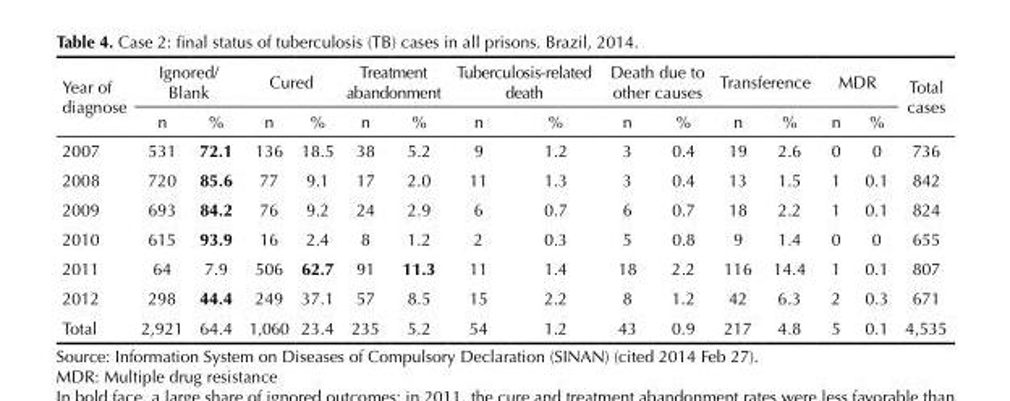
<table><thead><tr><td rowspan="2">Year of diagnose</td><td colspan="2">Ignored/ Blank</td><td colspan="2">Cured</td><td colspan="2">Treatment abandonment</td><td colspan="2">Tuberculosis-related death</td><td colspan="2">Death due to other causes</td><td colspan="2">Transference</td><td colspan="2">MDR</td><td rowspan="2">Total cases</td></tr><tr><td>n</td><td>%</td><td>n</td><td>%</td><td>n</td><td>%</td><td>n</td><td>%</td><td>n</td><td>%</td><td>n</td><td>%</td><td>n</td><td>%</td></tr></thead><tbody><tr><td>2007</td><td>531</td><td>72.1</td><td>136</td><td>18.5</td><td>38</td><td>5.2</td><td>9</td><td>1.2</td><td>3</td><td>0.4</td><td>19</td><td>2.6</td><td>0</td><td>0</td><td>736</td></tr><tr><td>2008</td><td>720</td><td>85.6</td><td>77</td><td>9.1</td><td>17</td><td>2.0</td><td>11</td><td>1.3</td><td>3</td><td>0.4</td><td>13</td><td>1.5</td><td>1</td><td>0.1</td><td>842</td></tr><tr><td>2009</td><td>693</td><td>84.2</td><td>76</td><td>9.2</td><td>24</td><td>2.9</td><td>6</td><td>0.7</td><td>6</td><td>0.7</td><td>18</td><td>2.2</td><td>1</td><td>0.1</td><td>824</td></tr><tr><td>2010</td><td>615</td><td>93.9</td><td>16</td><td>2.4</td><td>8</td><td>1.2</td><td>2</td><td>0.3</td><td>5</td><td>0.8</td><td>9</td><td>1.4</td><td>0</td><td>0</td><td>655</td></tr><tr><td>2011</td><td>64</td><td>7.9</td><td>506</td><td>62.7</td><td>91</td><td>11.3</td><td>11</td><td>1.4</td><td>18</td><td>2.2</td><td>116</td><td>14.4</td><td>1</td><td>0.1</td><td>807</td></tr><tr><td>2012</td><td>298</td><td>44.4</td><td>249</td><td>37.1</td><td>57</td><td>8.5</td><td>15</td><td>2.2</td><td>8</td><td>1.2</td><td>42</td><td>6.3</td><td>2</td><td>0.3</td><td>671</td></tr><tr><td>Total</td><td>2,921</td><td>64.4</td><td>1,060</td><td>23.4</td><td>235</td><td>5.2</td><td>54</td><td>1.2</td><td>43</td><td>0.9</td><td>217</td><td>4.8</td><td>5</td><td>0.1</td><td>4,535</td></tr></tbody></table>